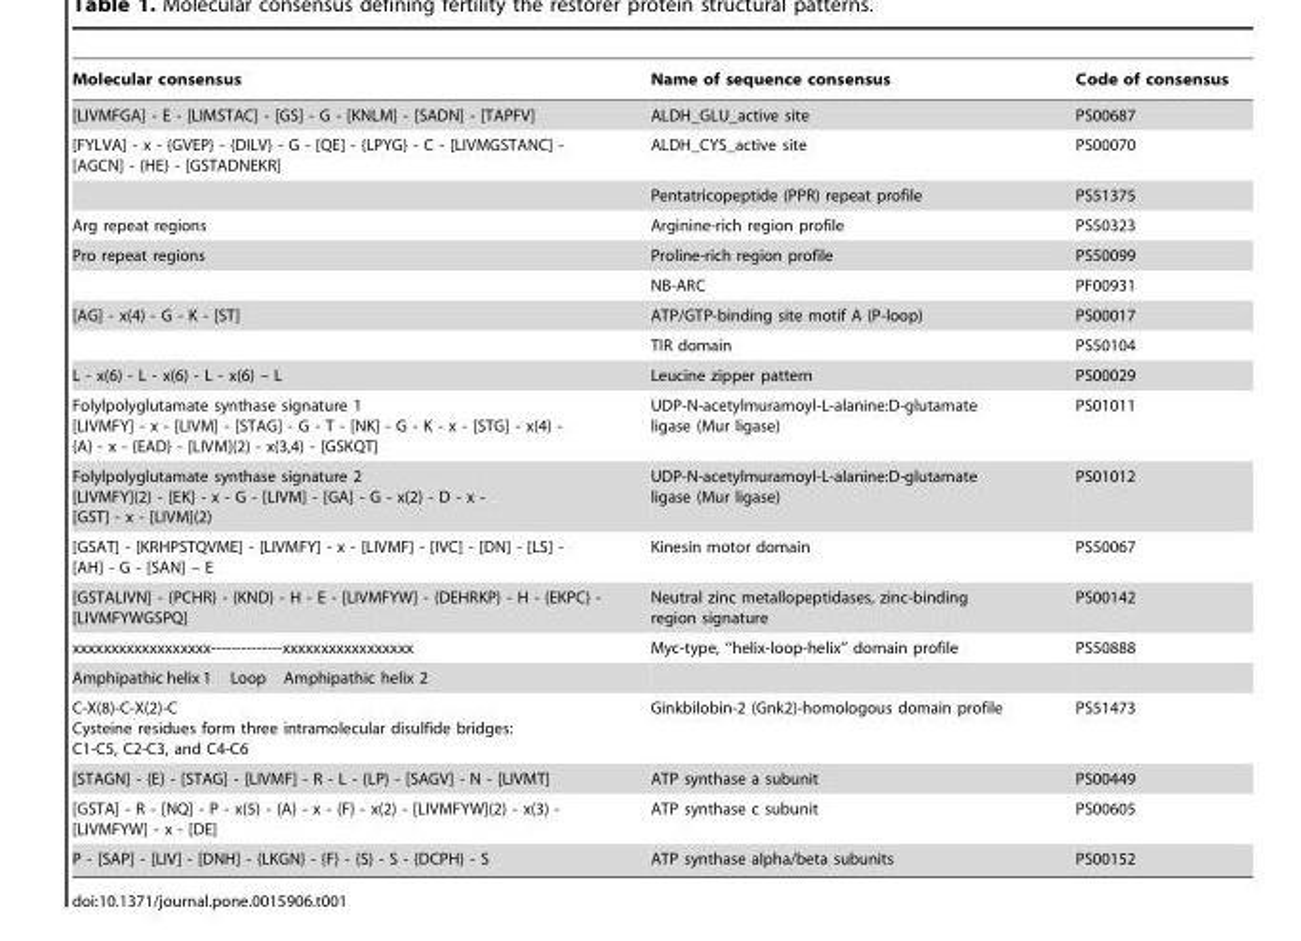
<table><thead><tr><td>Molecular consensus</td><td>Name of sequence consensus</td><td>Code of consensus</td></tr></thead><tbody><tr><td>[LIVMFGA] - E - [LIMSTAC] - [GS] - G - [KNLM] - [SADN] - [TAPFV]</td><td>ALDH_GLU_active site</td><td>PS00687</td></tr><tr><td rowspan="2">[FYLVA] - x - {GVEP} - {DILV} - G - [QE] - {LPYG} - C - [LIVMGSTANC] - [AGCN] - {HE} - [GSTADNEKR]</td><td>ALDH_CYS_active site</td><td>PS00070</td></tr><tr><td>Pentatricopeptide (PPR) repeat profile</td><td>PS51375</td></tr><tr><td>Arg repeat regions</td><td>Arginine-rich region profile</td><td>PS50323</td></tr><tr><td rowspan="2">Pro repeat regions</td><td>Proline-rich region profile</td><td>PS50099</td></tr><tr><td>NB-ARC</td><td>PF00931</td></tr><tr><td rowspan="2">[AG] - x(4) - G - K - [ST]</td><td>ATP/GTP-binding site motif A (P-loop)</td><td>PS00017</td></tr><tr><td>TIR domain</td><td>PS50104</td></tr><tr><td>L - x(6) - L - x(6) - L - x(6) – L</td><td>Leucine zipper pattern</td><td>PS00029</td></tr><tr><td>Folylpolyglutamate synthase signature 1 [LIVMFY] - x - [LIVM] - [STAG] - G - T - [NK] - G - K - x - [STG] - x(4) - {A} - x - {EAD} - [LIVM](2) - x(3,4) - [GSKQT]</td><td>UDP-N-acetylmuramoyl-L-alanine:D-glutamate ligase (Mur ligase)</td><td>PS01011</td></tr><tr><td>Folylpolyglutamate synthase signature 2 [LIVMFY](2) - [EK] - x - G - [LIVM] - [GA] - G - x(2) - D - x - [GST] - x - [LIVM](2)</td><td>UDP-N-acetylmuramoyl-L-alanine:D-glutamate ligase (Mur ligase)</td><td>PS01012</td></tr><tr><td>[GSAT] - [KRHPSTQVME] - [LIVMFY] - x - [LIVMF] - [IVC] - [DN] - [LS] - [AH] - G - [SAN] – E</td><td>Kinesin motor domain</td><td>PS50067</td></tr><tr><td>[GSTALIVN] - {PCHR} - {KND} - H - E - [LIVMFYW] - {DEHRKP} - H - {EKPC} - [LIVMFYWGSPQ]</td><td>Neutral zinc metallopeptidases, zinc-binding region signature</td><td>PS00142</td></tr><tr><td>xxxxxxxxxxxxxxxxxx--------------xxxxxxxxxxxxxxxxx</td><td>Myc-type, ‘‘helix-loop-helix’’ domain profile</td><td>PS50888</td></tr><tr><td colspan="3">Amphipathic helix 1 Loop Amphipathic helix 2</td></tr><tr><td>C-X(8)-C-X(2)-C Cysteine residues form three intramolecular disulfide bridges: C1-C5, C2-C3, and C4-C6</td><td>Ginkbilobin-2 (Gnk2)-homologous domain profile</td><td>PS51473</td></tr><tr><td>[STAGN] - {E} - [STAG] - [LIVMF] - R - L - {LP} - [SAGV] - N - [LIVMT]</td><td>ATP synthase a subunit</td><td>PS00449</td></tr><tr><td>[GSTA] - R - [NQ] - P - x(5) - {A} - x - {F} - x(2) - [LIVMFYW](2) - x(3) - [LIVMFYW] - x - [DE]</td><td>ATP synthase c subunit</td><td>PS00605</td></tr><tr><td>P - [SAP] - [LIV] - [DNH] - {LKGN} - {F} - {S} - S - {DCPH} - S</td><td>ATP synthase alpha/beta subunits</td><td>PS00152</td></tr></tbody></table>